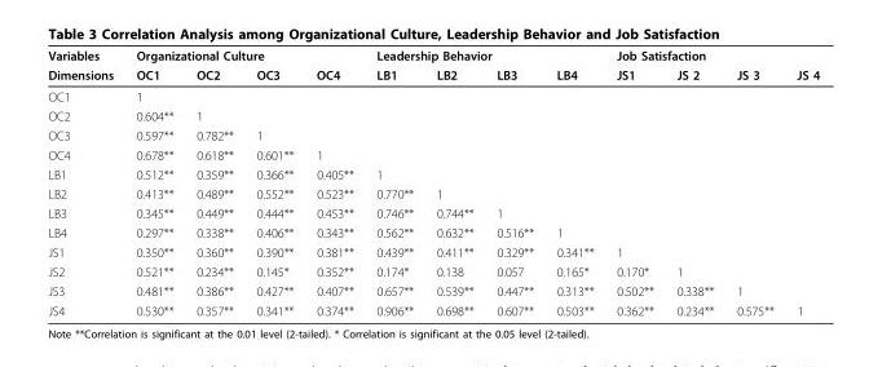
<table><thead><tr><td rowspan="2">Variables Dimensions</td><td colspan="4">Organizational Culture</td><td colspan="4">Leadership Behavior</td><td colspan="4">Job Satisfaction</td></tr><tr><td>OC1</td><td>OC2</td><td>OC3</td><td>OC4</td><td>LB1</td><td>LB2</td><td>LB3</td><td>LB4</td><td>JS1</td><td>JS 2</td><td>JS 3</td><td>JS 4</td></tr></thead><tbody><tr><td>OC1</td><td>1</td><td></td><td></td><td></td><td></td><td></td><td></td><td></td><td></td><td></td><td></td><td></td></tr><tr><td>OC2</td><td>0.604**</td><td>1</td><td></td><td></td><td></td><td></td><td></td><td></td><td></td><td></td><td></td><td></td></tr><tr><td>OC3</td><td>0.597**</td><td>0.782**</td><td>1</td><td></td><td></td><td></td><td></td><td></td><td></td><td></td><td></td><td></td></tr><tr><td>OC4</td><td>0.678**</td><td>0.618**</td><td>0.601**</td><td>1</td><td></td><td></td><td></td><td></td><td></td><td></td><td></td><td></td></tr><tr><td>LB1</td><td>0.512**</td><td>0.359**</td><td>0.366**</td><td>0.405**</td><td>1</td><td></td><td></td><td></td><td></td><td></td><td></td><td></td></tr><tr><td>LB2</td><td>0.413**</td><td>0.489**</td><td>0.552**</td><td>0.523**</td><td>0.770**</td><td>1</td><td></td><td></td><td></td><td></td><td></td><td></td></tr><tr><td>LB3</td><td>0.345**</td><td>0.449**</td><td>0.444**</td><td>0.453**</td><td>0.746**</td><td>0.744**</td><td>1</td><td></td><td></td><td></td><td></td><td></td></tr><tr><td>LB4</td><td>0.297**</td><td>0.338**</td><td>0.406**</td><td>0.343**</td><td>0.562**</td><td>0.632**</td><td>0.516**</td><td>1</td><td></td><td></td><td></td><td></td></tr><tr><td>JS1</td><td>0.350**</td><td>0.360**</td><td>0.390**</td><td>0.381**</td><td>0.439**</td><td>0.411**</td><td>0.329**</td><td>0.341**</td><td>1</td><td></td><td></td><td></td></tr><tr><td>JS2</td><td>0.521**</td><td>0.234**</td><td>0.145*</td><td>0.352**</td><td>0.174*</td><td>0.138</td><td>0.057</td><td>0.165*</td><td>0.170*</td><td>1</td><td></td><td></td></tr><tr><td>JS3</td><td>0.481**</td><td>0.386**</td><td>0.427**</td><td>0.407**</td><td>0.657**</td><td>0.539**</td><td>0.447**</td><td>0.313**</td><td>0.502**</td><td>0.338**</td><td>1</td><td></td></tr><tr><td>JS4</td><td>0.530**</td><td>0.357**</td><td>0.341**</td><td>0.374**</td><td>0.906**</td><td>0.698**</td><td>0.607**</td><td>0.503**</td><td>0.362**</td><td>0.234**</td><td>0.575**</td><td>1</td></tr></tbody></table>